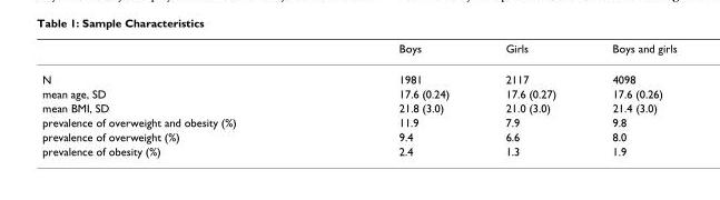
<table><thead><tr><td></td><td>Boys</td><td>Girls</td><td>Boys and girls</td></tr></thead><tbody><tr><td>N</td><td>1981</td><td>2117</td><td>4098</td></tr><tr><td>mean age, SD</td><td>17.6 (0.24)</td><td>17.6 (0.27)</td><td>17.6 (0.26)</td></tr><tr><td>mean BMI, SD</td><td>21.8 (3.0)</td><td>21.0 (3.0)</td><td>21.4 (3.0)</td></tr><tr><td>prevalence of overweight and obesity (%)</td><td>11.9</td><td>7.9</td><td>9.8</td></tr><tr><td>prevalence of overweight (%)</td><td>9.4</td><td>6.6</td><td>8.0</td></tr><tr><td>prevalence of obesity (%)</td><td>2.4</td><td>1.3</td><td>1.9</td></tr></tbody></table>